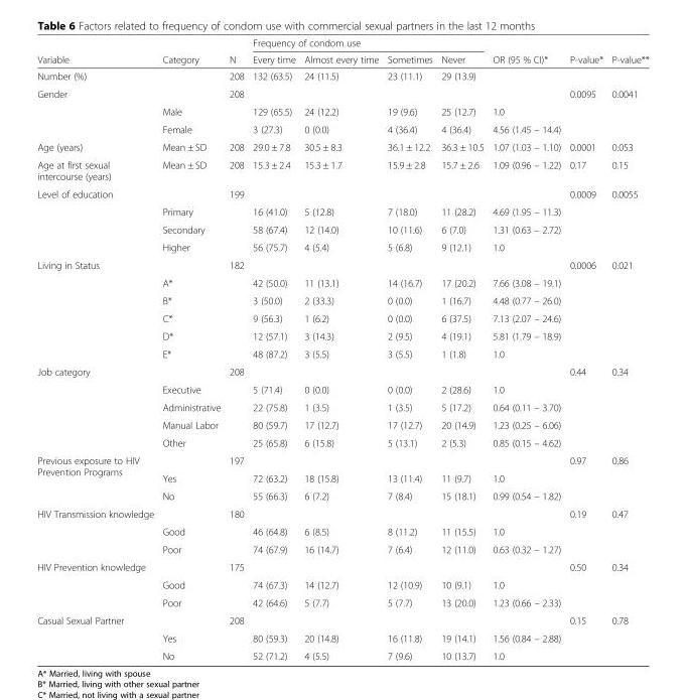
<table><thead><tr><td rowspan="2">Variable</td><td rowspan="2">Category</td><td rowspan="2">N</td><td colspan="4">Frequency of condom use</td><td rowspan="2">OR (95 % CI)*</td><td rowspan="2">P-value*</td><td rowspan="2">P-value**</td></tr><tr><td>Every time</td><td>Almost every time</td><td>Sometimes</td><td>Never</td></tr></thead><tbody><tr><td>Number (%)</td><td></td><td>208</td><td>132 (63.5)</td><td>24 (11.5)</td><td>23 (11.1)</td><td>29 (13.9)</td><td></td><td></td><td></td></tr><tr><td rowspan="3">Gender</td><td></td><td>208</td><td></td><td></td><td></td><td></td><td></td><td>0.0095</td><td>0.0041</td></tr><tr><td>Male</td><td></td><td>129 (65.5)</td><td>24 (12.2)</td><td>19 (9.6)</td><td>25 (12.7)</td><td>1.0</td><td></td><td></td></tr><tr><td>Female</td><td></td><td>3 (27.3)</td><td>0 (0.0)</td><td>4 (36.4)</td><td>4 (36.4)</td><td>4.56 (1.45 – 14.4)</td><td></td><td></td></tr><tr><td>Age (years)</td><td>Mean ± SD</td><td>208</td><td>29.0 ± 7.8</td><td>30.5 ± 8.3</td><td>36.1 ± 12.2</td><td>36.3 ± 10.5</td><td>1.07 (1.03 – 1.10)</td><td>0.0001</td><td>0.053</td></tr><tr><td>Age at first sexual intercourse (years)</td><td>Mean ± SD</td><td>208</td><td>15.3 ± 2.4</td><td>15.3 ± 1.7</td><td>15.9 ± 2.8</td><td>15.7 ± 2.6</td><td>1.09 (0.96 – 1.22)</td><td>0.17</td><td>0.15</td></tr><tr><td rowspan="4">Level of education</td><td></td><td>199</td><td></td><td></td><td></td><td></td><td></td><td>0.0009</td><td>0.0055</td></tr><tr><td>Primary</td><td></td><td>16 (41.0)</td><td>5 (12.8)</td><td>7 (18.0)</td><td>11 (28.2)</td><td>4.69 (1.95 – 11.3)</td><td></td><td></td></tr><tr><td>Secondary</td><td></td><td>58 (67.4)</td><td>12 (14.0)</td><td>10 (11.6)</td><td>6 (7.0)</td><td>1.31 (0.63 – 2.72)</td><td></td><td></td></tr><tr><td>Higher</td><td></td><td>56 (75.7)</td><td>4 (5.4)</td><td>5 (6.8)</td><td>9 (12.1)</td><td>1.0</td><td></td><td></td></tr><tr><td rowspan="6">Living in Status</td><td></td><td>182</td><td></td><td></td><td></td><td></td><td></td><td>0.0006</td><td>0.021</td></tr><tr><td>A*</td><td></td><td>42 (50.0)</td><td>11 (13.1)</td><td>14 (16.7)</td><td>17 (20.2)</td><td>7.66 (3.08 – 19.1)</td><td></td><td></td></tr><tr><td>B*</td><td></td><td>3 (50.0)</td><td>2 (33.3)</td><td>0 (0.0)</td><td>1 (16.7)</td><td>4.48 (0.77 – 26.0)</td><td></td><td></td></tr><tr><td>C*</td><td></td><td>9 (56.3)</td><td>1 (6.2)</td><td>0 (0.0)</td><td>6 (37.5)</td><td>7.13 (2.07 – 24.6)</td><td></td><td></td></tr><tr><td>D*</td><td></td><td>12 (57.1)</td><td>3 (14.3)</td><td>2 (9.5)</td><td>4 (19.1)</td><td>5.81 (1.79 – 18.9)</td><td></td><td></td></tr><tr><td>E*</td><td></td><td>48 (87.2)</td><td>3 (5.5)</td><td>3 (5.5)</td><td>1 (1.8)</td><td>1.0</td><td></td><td></td></tr><tr><td rowspan="5">Job category</td><td></td><td>208</td><td></td><td></td><td></td><td></td><td></td><td>0.44</td><td>0.34</td></tr><tr><td>Executive</td><td></td><td>5 (71.4)</td><td>0 (0.0)</td><td>0 (0.0)</td><td>2 (28.6)</td><td>1.0</td><td></td><td></td></tr><tr><td>Administrative</td><td></td><td>22 (75.8)</td><td>1 (3.5)</td><td>1 (3.5)</td><td>5 (17.2)</td><td>0.64 (0.11 – 3.70)</td><td></td><td></td></tr><tr><td>Manual Labor</td><td></td><td>80 (59.7)</td><td>17 (12.7)</td><td>17 (12.7)</td><td>20 (14.9)</td><td>1.23 (0.25 – 6.06)</td><td></td><td></td></tr><tr><td>Other</td><td></td><td>25 (65.8)</td><td>6 (15.8)</td><td>5 (13.1)</td><td>2 (5.3)</td><td>0.85 (0.15 – 4.62)</td><td></td><td></td></tr><tr><td rowspan="3">Previous exposure to HIV Prevention Programs</td><td></td><td>197</td><td></td><td></td><td></td><td></td><td></td><td>0.97</td><td>0.86</td></tr><tr><td>Yes</td><td></td><td>72 (63.2)</td><td>18 (15.8)</td><td>13 (11.4)</td><td>11 (9.7)</td><td>1.0</td><td></td><td></td></tr><tr><td>No</td><td></td><td>55 (66.3)</td><td>6 (7.2)</td><td>7 (8.4)</td><td>15 (18.1)</td><td>0.99 (0.54 – 1.82)</td><td></td><td></td></tr><tr><td rowspan="3">HIV Transmission knowledge</td><td></td><td>180</td><td></td><td></td><td></td><td></td><td></td><td>0.19</td><td>0.47</td></tr><tr><td>Good</td><td></td><td>46 (64.8)</td><td>6 (8.5)</td><td>8 (11.2)</td><td>11 (15.5)</td><td>1.0</td><td></td><td></td></tr><tr><td>Poor</td><td></td><td>74 (67.9)</td><td>16 (14.7)</td><td>7 (6.4)</td><td>12 (11.0)</td><td>0.63 (0.32 – 1.27)</td><td></td><td></td></tr><tr><td rowspan="3">HIV Prevention knowledge</td><td></td><td>175</td><td></td><td></td><td></td><td></td><td></td><td>0.50</td><td>0.34</td></tr><tr><td>Good</td><td></td><td>74 (67.3)</td><td>14 (12.7)</td><td>12 (10.9)</td><td>10 (9.1)</td><td>1.0</td><td></td><td></td></tr><tr><td>Poor</td><td></td><td>42 (64.6)</td><td>5 (7.7)</td><td>5 (7.7)</td><td>13 (20.0)</td><td>1.23 (0.66 – 2.33)</td><td></td><td></td></tr><tr><td rowspan="3">Casual Sexual Partner</td><td></td><td>208</td><td></td><td></td><td></td><td></td><td></td><td>0.15</td><td>0.78</td></tr><tr><td>Yes</td><td></td><td>80 (59.3)</td><td>20 (14.8)</td><td>16 (11.8)</td><td>19 (14.1)</td><td>1.56 (0.84 – 2.88)</td><td></td><td></td></tr><tr><td>No</td><td></td><td>52 (71.2)</td><td>4 (5.5)</td><td>7 (9.6)</td><td>10 (13.7)</td><td>1.0</td><td></td><td></td></tr></tbody></table>